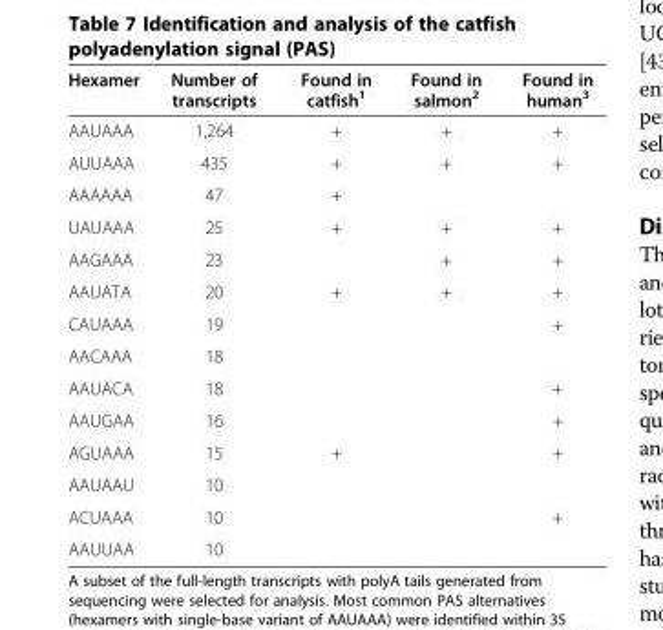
<table><thead><tr><td>Hexamer</td><td>Number of transcripts</td><td>Found in catfish<sup>1</sup></td><td>Found in salmon<sup>2</sup></td><td>Found in human<sup>3</sup></td></tr></thead><tbody><tr><td>AAUAAA</td><td>1,264</td><td>+</td><td>+</td><td>+</td></tr><tr><td>AUUAAA</td><td>435</td><td>+</td><td>+</td><td>+</td></tr><tr><td>AAAAAA</td><td>47</td><td>+</td><td></td><td></td></tr><tr><td>UAUAAA</td><td>25</td><td>+</td><td>+</td><td>+</td></tr><tr><td>AAGAAA</td><td>23</td><td></td><td>+</td><td>+</td></tr><tr><td>AAUATA</td><td>20</td><td>+</td><td>+</td><td>+</td></tr><tr><td>CAUAAA</td><td>19</td><td></td><td></td><td>+</td></tr><tr><td>AACAAA</td><td>18</td><td></td><td></td><td></td></tr><tr><td>AAUACA</td><td>18</td><td></td><td></td><td>+</td></tr><tr><td>AAUGAA</td><td>16</td><td></td><td></td><td>+</td></tr><tr><td>AGUAAA</td><td>15</td><td>+</td><td></td><td>+</td></tr><tr><td>AAUAAU</td><td>10</td><td></td><td></td><td></td></tr><tr><td>ACUAAA</td><td>10</td><td></td><td></td><td>+</td></tr><tr><td>AAUUAA</td><td>10</td><td></td><td></td><td></td></tr></tbody></table>